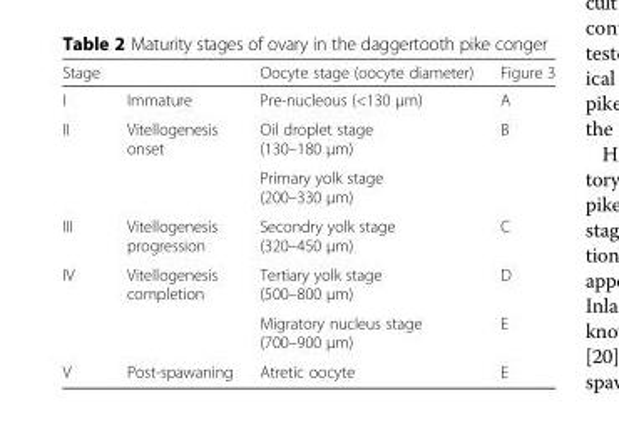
<table><thead><tr><td>Stage</td><td></td><td>Oocyte stage (oocyte diameter)</td><td>Figure 3</td></tr></thead><tbody><tr><td>I</td><td>Immature</td><td>Pre-nucleous (&lt;130 μm)</td><td>A</td></tr><tr><td rowspan="2">II</td><td rowspan="2">Vitellogenesis onset</td><td>Oil droplet stage (130–180 μm)</td><td rowspan="2">B</td></tr><tr><td>Primary yolk stage (200–330 μm)</td></tr><tr><td>III</td><td>Vitellogenesis progression</td><td>Secondry yolk stage (320–450 μm)</td><td>C</td></tr><tr><td rowspan="2">IV</td><td rowspan="2">Vitellogenesis completion</td><td>Tertiary yolk stage (500–800 μm)</td><td>D</td></tr><tr><td>Migratory nucleus stage (700–900 μm)</td><td>E</td></tr><tr><td>V</td><td>Post-spawaning</td><td>Atretic oocyte</td><td>E</td></tr></tbody></table>